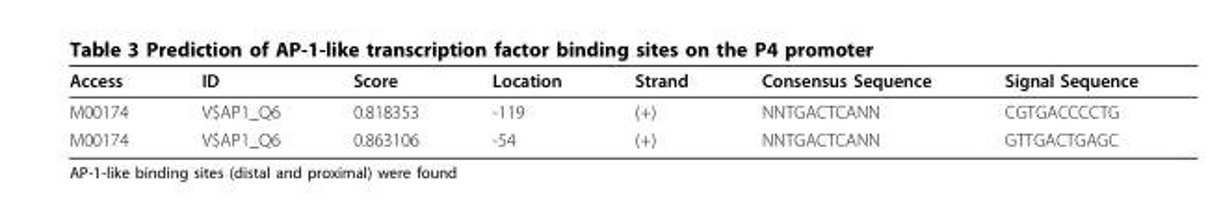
<table><thead><tr><td>Access</td><td>ID</td><td>Score</td><td>Location</td><td>Strand</td><td>Consensus Sequence</td><td>Signal Sequence</td></tr></thead><tbody><tr><td>M00174</td><td>V$AP1_Q6</td><td>0.818353</td><td>-119</td><td>(+)</td><td>NNTGACTCANN</td><td>CGTGACCCCTG</td></tr><tr><td>M00174</td><td>V$AP1_Q6</td><td>0.863106</td><td>-54</td><td>(+)</td><td>NNTGACTCANN</td><td>GTTGACTGAGC</td></tr></tbody></table>